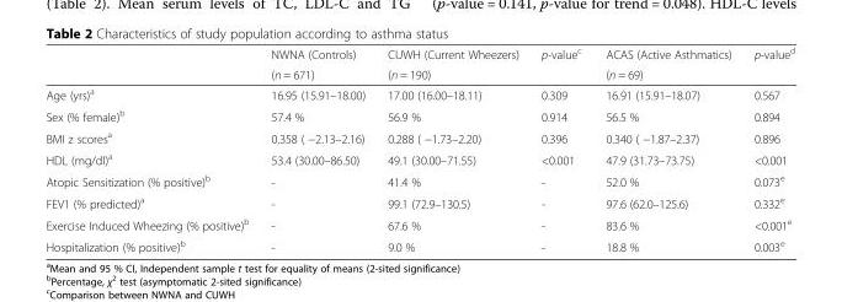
<table><thead><tr><td rowspan="2"></td><td rowspan="2">NWNA (Controls) (n = 671)</td><td rowspan="2">CUWH (Current Wheezers) (n = 190)</td><td rowspan="2">p-value<sup>c</sup></td><td rowspan="2">ACAS (Active Asthmatics) (n = 69)</td><td rowspan="2">p-value<sup>d</sup></td></tr><tr></tr></thead><tbody><tr><td>Age (yrs)<sup>a</sup></td><td>16.95 (15.91–18.00)</td><td>17.00 (16.00–18.11)</td><td>0.309</td><td>16.91 (15.91–18.07)</td><td>0.567</td></tr><tr><td>Sex (% female)<sup>b</sup></td><td>57.4 %</td><td>56.9 %</td><td>0.914</td><td>56.5 %</td><td>0.894</td></tr><tr><td>BMI z scores<sup>a</sup></td><td>0.358 ( −2.13–2.16)</td><td>0.288 ( −1.73–2.20)</td><td>0.396</td><td>0.340 ( −1.87–2.37)</td><td>0.896</td></tr><tr><td>HDL (mg/dl)<sup>a</sup></td><td>53.4 (30.00–86.50)</td><td>49.1 (30.00–71.55)</td><td>&lt;0.001</td><td>47.9 (31.73–73.75)</td><td>&lt;0.001</td></tr><tr><td>Atopic Sensitization (% positive)<sup>b</sup></td><td>-</td><td>41.4 %</td><td>-</td><td>52.0 %</td><td>0.073<sup>e</sup></td></tr><tr><td>FEV1 (% predicted)<sup>a</sup></td><td>-</td><td>99.1 (72.9–130.5)</td><td>-</td><td>97.6 (62.0–125.6)</td><td>0.332<sup>e</sup></td></tr><tr><td>Exercise Induced Wheezing (% positive)<sup>b</sup></td><td>-</td><td>67.6 %</td><td>-</td><td>83.6 %</td><td>&lt;0.001<sup>e</sup></td></tr><tr><td>Hospitalization (% positive)<sup>b</sup></td><td>-</td><td>9.0 %</td><td>-</td><td>18.8 %</td><td>0.003<sup>e</sup></td></tr></tbody></table>